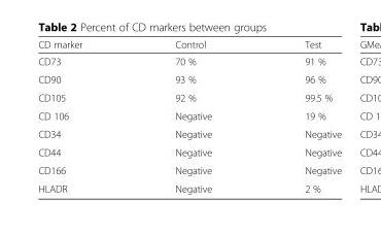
<table><thead><tr><td>CD marker</td><td>Control</td><td>Test</td></tr></thead><tbody><tr><td>CD73</td><td>70 %</td><td>91 %</td></tr><tr><td>CD90</td><td>93 %</td><td>96 %</td></tr><tr><td>CD105</td><td>92 %</td><td>99.5 %</td></tr><tr><td>CD 106</td><td>Negative</td><td>19 %</td></tr><tr><td>CD34</td><td>Negative</td><td>Negative</td></tr><tr><td>CD44</td><td>Negative</td><td>Negative</td></tr><tr><td>CD166</td><td>Negative</td><td>Negative</td></tr><tr><td>HLADR</td><td>Negative</td><td>2 %</td></tr></tbody></table>